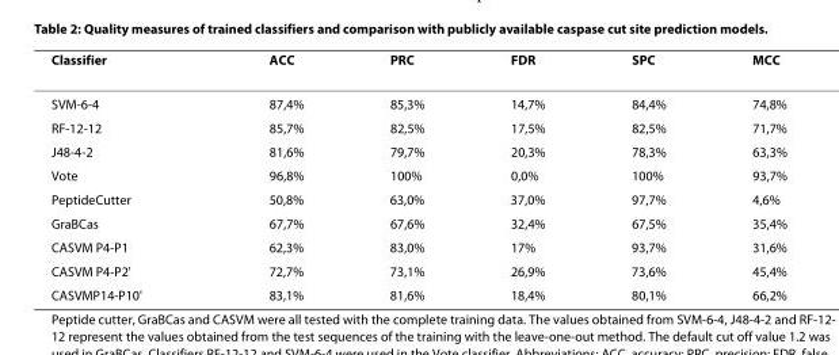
<table><thead><tr><td>Classifier</td><td>ACC</td><td>PRC</td><td>FDR</td><td>SPC</td><td>MCC</td></tr></thead><tbody><tr><td>SVM-6-4</td><td>87,4%</td><td>85,3%</td><td>14,7%</td><td>84,4%</td><td>74,8%</td></tr><tr><td>RF-12-12</td><td>85,7%</td><td>82,5%</td><td>17,5%</td><td>82,5%</td><td>71,7%</td></tr><tr><td>J48-4-2</td><td>81,6%</td><td>79,7%</td><td>20,3%</td><td>78,3%</td><td>63,3%</td></tr><tr><td>Vote</td><td>96,8%</td><td>100%</td><td>0,0%</td><td>100%</td><td>93,7%</td></tr><tr><td>PeptideCutter</td><td>50,8%</td><td>63,0%</td><td>37,0%</td><td>97,7%</td><td>4,6%</td></tr><tr><td>GraBCas</td><td>67,7%</td><td>67,6%</td><td>32,4%</td><td>67,5%</td><td>35,4%</td></tr><tr><td>CASVM P4-P1</td><td>62,3%</td><td>83,0%</td><td>17%</td><td>93,7%</td><td>31,6%</td></tr><tr><td>CASVM P4-P2&#x27;</td><td>72,7%</td><td>73,1%</td><td>26,9%</td><td>73,6%</td><td>45,4%</td></tr><tr><td>CASVMP14-P10&#x27;</td><td>83,1%</td><td>81,6%</td><td>18,4%</td><td>80,1%</td><td>66,2%</td></tr></tbody></table>